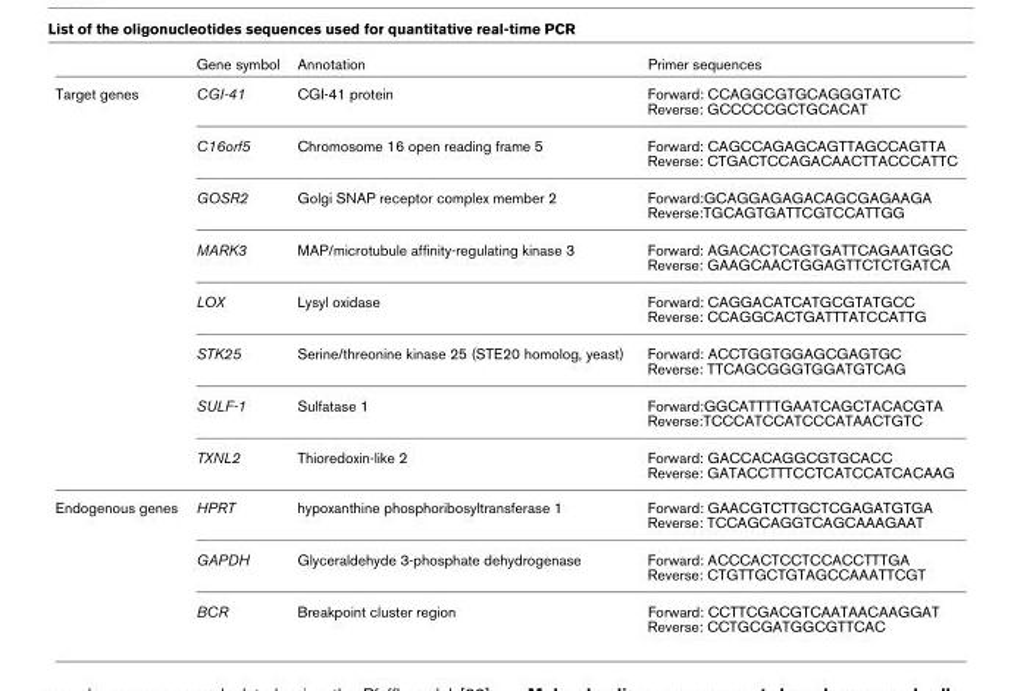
<table><thead><tr><td></td><td>Gene symbol</td><td>Annotation</td><td>Primer sequences</td></tr></thead><tbody><tr><td rowspan="8">Target genes</td><td>CGI-41</td><td>CGI-41 protein</td><td>Forward: CCAGGCGTGCAGGGTATC Reverse: GCCCCCGCTGCACAT</td></tr><tr><td>C16orf5</td><td>Chromosome 16 open reading frame 5</td><td>Forward: CAGCCAGAGCAGTTAGCCAGTTA Reverse: CTGACTCCAGACAACTTACCCATTC</td></tr><tr><td>GOSR2</td><td>Golgi SNAP receptor complex member 2</td><td>Forward:GCAGGAGAGACAGCGAGAAGA Reverse:TGCAGTGATTCGTCCATTGG</td></tr><tr><td>MARK3</td><td>MAP/microtubule affinity-regulating kinase 3</td><td>Forward: AGACACTCAGTGATTCAGAATGGC Reverse: GAAGCAACTGGAGTTCTCTGATCA</td></tr><tr><td>LOX</td><td>Lysyl oxidase</td><td>Forward: CAGGACATCATGCGTATGCC Reverse: CCAGGCACTGATTTATCCATTG</td></tr><tr><td>STK25</td><td>Serine/threonine kinase 25 (STE20 homolog, yeast)</td><td>Forward: ACCTGGTGGAGCGAGTGC Reverse: TTCAGCGGGTGGATGTCAG</td></tr><tr><td>SULF-1</td><td>Sulfatase 1</td><td>Forward:GGCATTTTGAATCAGCTACACGTA Reverse:TCCCATCCATCCCATAACTGTC</td></tr><tr><td>TXNL2</td><td>Thioredoxin-like 2</td><td>Forward: GACCACAGGCGTGCACC Reverse: GATACCTTTCCTCATCCATCACAAG</td></tr><tr><td rowspan="3">Endogenous genes</td><td>HPRT</td><td>hypoxanthine phosphoribosyltransferase 1</td><td>Forward: GAACGTCTTGCTCGAGATGTGA Reverse: TCCAGCAGGTCAGCAAAGAAT</td></tr><tr><td>GAPDH</td><td>Glyceraldehyde 3-phosphate dehydrogenase</td><td>Forward: ACCCACTCCTCCACCTTTGA Reverse: CTGTTGCTGTAGCCAAATTCGT</td></tr><tr><td>BCR</td><td>Breakpoint cluster region</td><td>Forward: CCTTCGACGTCAATAACAAGGAT Reverse: CCTGCGATGGCGTTCAC</td></tr></tbody></table>